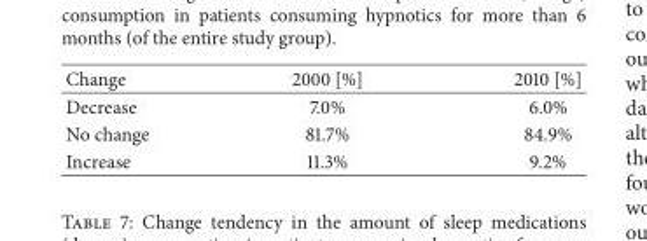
<table><thead><tr><td>Change</td><td>2000 [%]</td><td>2010 [%]</td></tr></thead><tbody><tr><td>Decrease</td><td>7.0%</td><td>6.0%</td></tr><tr><td>No change</td><td>81.7%</td><td>84.9%</td></tr><tr><td>Increase</td><td>11.3%</td><td>9.2%</td></tr></tbody></table>